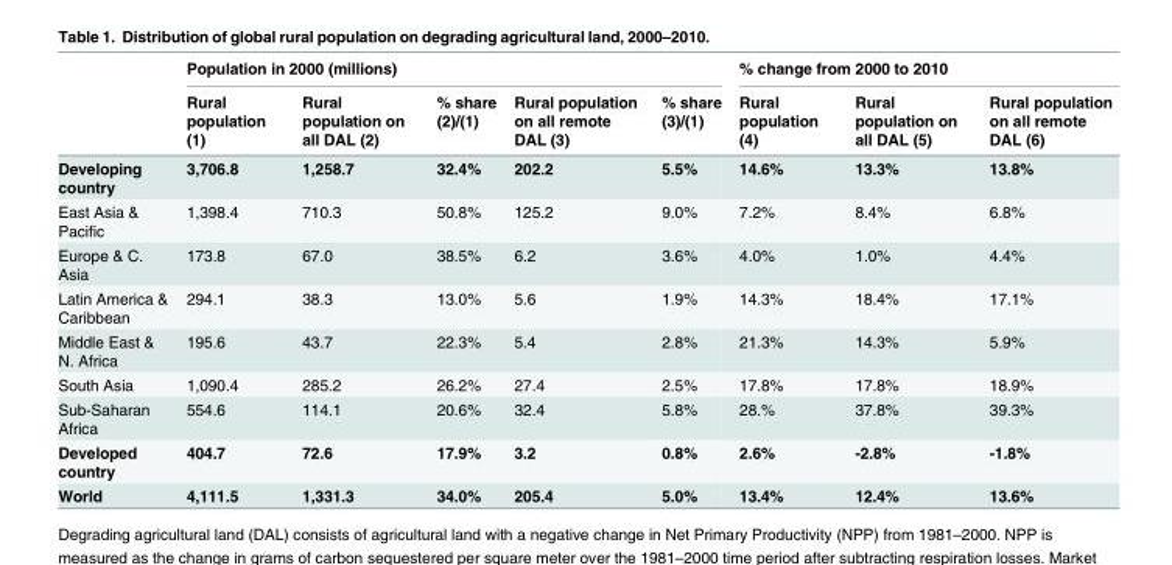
<table><thead><tr><td rowspan="2"></td><td colspan="5">Population in 2000 (millions)</td><td colspan="3">% change from 2000 to 2010</td></tr><tr><td>Rural population (1)</td><td>Rural population on all DAL (2)</td><td>% share (2)/(1)</td><td>Rural population on all remote DAL (3)</td><td>% share (3)/(1)</td><td>Rural population (4)</td><td>Rural population on all DAL (5)</td><td>Rural population on all remote DAL (6)</td></tr></thead><tbody><tr><td>Developing country</td><td>3,706.8</td><td>1,258.7</td><td>32.4%</td><td>202.2</td><td>5.5%</td><td>14.6%</td><td>13.3%</td><td>13.8%</td></tr><tr><td>East Asia &amp; Pacific</td><td>1,398.4</td><td>710.3</td><td>50.8%</td><td>125.2</td><td>9.0%</td><td>7.2%</td><td>8.4%</td><td>6.8%</td></tr><tr><td>Europe &amp; C. Asia</td><td>173.8</td><td>67.0</td><td>38.5%</td><td>6.2</td><td>3.6%</td><td>4.0%</td><td>1.0%</td><td>4.4%</td></tr><tr><td>Latin America &amp; Caribbean</td><td>294.1</td><td>38.3</td><td>13.0%</td><td>5.6</td><td>1.9%</td><td>14.3%</td><td>18.4%</td><td>17.1%</td></tr><tr><td>Middle East &amp; N. Africa</td><td>195.6</td><td>43.7</td><td>22.3%</td><td>5.4</td><td>2.8%</td><td>21.3%</td><td>14.3%</td><td>5.9%</td></tr><tr><td>South Asia</td><td>1,090.4</td><td>285.2</td><td>26.2%</td><td>27.4</td><td>2.5%</td><td>17.8%</td><td>17.8%</td><td>18.9%</td></tr><tr><td>Sub-Saharan Africa</td><td>554.6</td><td>114.1</td><td>20.6%</td><td>32.4</td><td>5.8%</td><td>28.%</td><td>37.8%</td><td>39.3%</td></tr><tr><td>Developed country</td><td>404.7</td><td>72.6</td><td>17.9%</td><td>3.2</td><td>0.8%</td><td>2.6%</td><td>-2.8%</td><td>-1.8%</td></tr><tr><td>World</td><td>4,111.5</td><td>1,331.3</td><td>34.0%</td><td>205.4</td><td>5.0%</td><td>13.4%</td><td>12.4%</td><td>13.6%</td></tr></tbody></table>